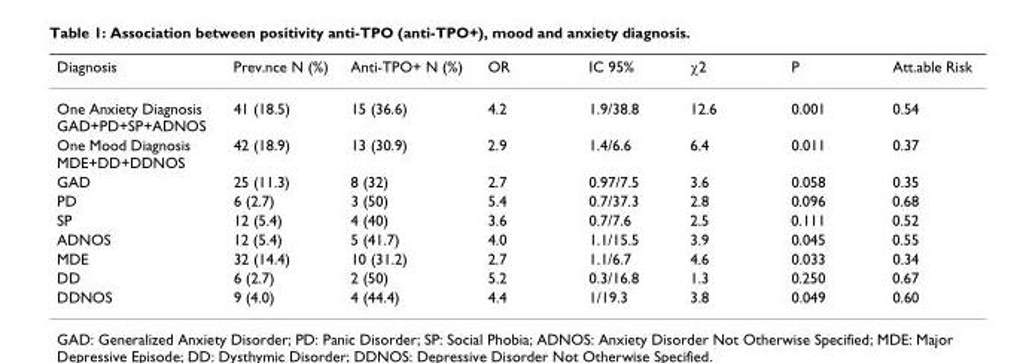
<table><thead><tr><td>Diagnosis</td><td>Prev.nce N (%)</td><td>Anti-TPO+ N (%)</td><td>OR</td><td>IC 95%</td><td>χ2</td><td>P</td><td>Att.able Risk</td></tr></thead><tbody><tr><td>One Anxiety Diagnosis GAD+PD+SP+ADNOS</td><td>41 (18.5)</td><td>15 (36.6)</td><td>4.2</td><td>1.9/38.8</td><td>12.6</td><td>0.001</td><td>0.54</td></tr><tr><td>One Mood Diagnosis MDE+DD+DDNOS</td><td>42 (18.9)</td><td>13 (30.9)</td><td>2.9</td><td>1.4/6.6</td><td>6.4</td><td>0.011</td><td>0.37</td></tr><tr><td>GAD</td><td>25 (11.3)</td><td>8 (32)</td><td>2.7</td><td>0.97/7.5</td><td>3.6</td><td>0.058</td><td>0.35</td></tr><tr><td>PD</td><td>6 (2.7)</td><td>3 (50)</td><td>5.4</td><td>0.7/37.3</td><td>2.8</td><td>0.096</td><td>0.68</td></tr><tr><td>SP</td><td>12 (5.4)</td><td>4 (40)</td><td>3.6</td><td>0.7/7.6</td><td>2.5</td><td>0.111</td><td>0.52</td></tr><tr><td>ADNOS</td><td>12 (5.4)</td><td>5 (41.7)</td><td>4.0</td><td>1.1/15.5</td><td>3.9</td><td>0.045</td><td>0.55</td></tr><tr><td>MDE</td><td>32 (14.4)</td><td>10 (31.2)</td><td>2.7</td><td>1.1/6.7</td><td>4.6</td><td>0.033</td><td>0.34</td></tr><tr><td>DD</td><td>6 (2.7)</td><td>2 (50)</td><td>5.2</td><td>0.3/16.8</td><td>1.3</td><td>0.250</td><td>0.67</td></tr><tr><td>DDNOS</td><td>9 (4.0)</td><td>4 (44.4)</td><td>4.4</td><td>1/19.3</td><td>3.8</td><td>0.049</td><td>0.60</td></tr></tbody></table>